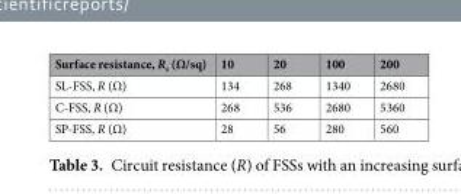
<table><thead><tr><td>Surface resistance, R<sub>s</sub> (Ω/sq)</td><td>10</td><td>20</td><td>100</td><td>200</td></tr></thead><tbody><tr><td>SL-FSS, R (Ω)</td><td>134</td><td>268</td><td>1340</td><td>2680</td></tr><tr><td>C-FSS, R (Ω)</td><td>268</td><td>536</td><td>2680</td><td>5360</td></tr><tr><td>SP-FSS, R (Ω)</td><td>28</td><td>56</td><td>280</td><td>560</td></tr></tbody></table>